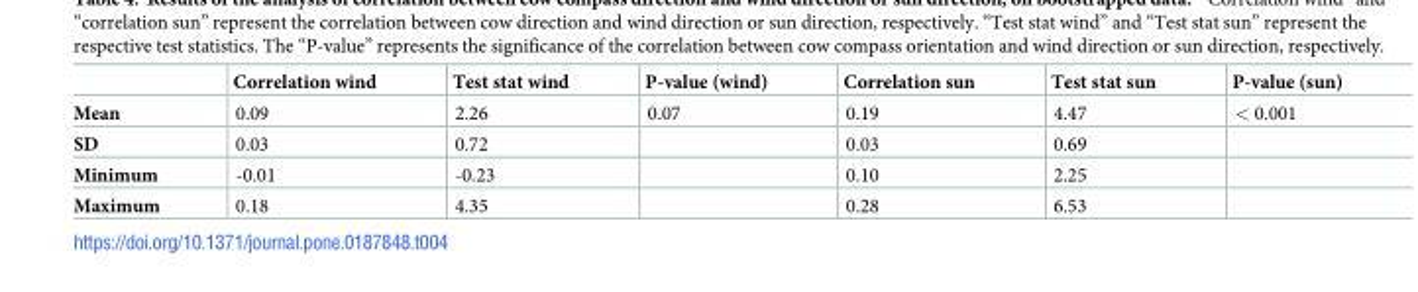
<table><thead><tr><td></td><td>Correlation wind</td><td>Test stat wind</td><td>P-value (wind)</td><td>Correlation sun</td><td>Test stat sun</td><td>P-value (sun)</td></tr></thead><tbody><tr><td>Mean</td><td>0.09</td><td>2.26</td><td>0.07</td><td>0.19</td><td>4.47</td><td>&lt; 0.001</td></tr><tr><td>SD</td><td>0.03</td><td>0.72</td><td></td><td>0.03</td><td>0.69</td><td></td></tr><tr><td>Minimum</td><td>-0.01</td><td>-0.23</td><td></td><td>0.10</td><td>2.25</td><td></td></tr><tr><td>Maximum</td><td>0.18</td><td>4.35</td><td></td><td>0.28</td><td>6.53</td><td></td></tr></tbody></table>